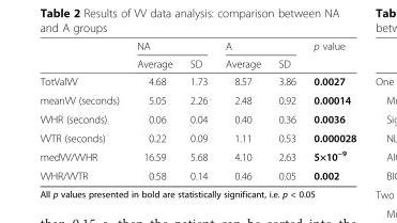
<table><thead><tr><td rowspan="2"></td><td colspan="2">NA</td><td colspan="2">A</td><td rowspan="2">p value</td></tr><tr><td>Average</td><td>SD</td><td>Average</td><td>SD</td></tr></thead><tbody><tr><td>TotValVV</td><td>4.68</td><td>1.73</td><td>8.57</td><td>3.86</td><td>0.0027</td></tr><tr><td>meanVV (seconds)</td><td>5.05</td><td>2.26</td><td>2.48</td><td>0.92</td><td>0.00014</td></tr><tr><td>VVHR (seconds)</td><td>0.06</td><td>0.04</td><td>0.40</td><td>0.36</td><td>0.0036</td></tr><tr><td>VVTR (seconds)</td><td>0.22</td><td>0.09</td><td>1.11</td><td>0.53</td><td>0.000028</td></tr><tr><td>medVV/VVHR</td><td>16.59</td><td>5.68</td><td>4.10</td><td>2.63</td><td>5×10<sup>−9</sup></td></tr><tr><td>VVHR/VVTR</td><td>0.58</td><td>0.14</td><td>0.46</td><td>0.05</td><td>0.002</td></tr></tbody></table>